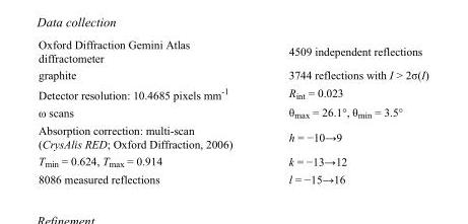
<table><tbody><tr><td>Oxford Diffraction Gemini Atlas diffractometer</td><td>4509 independent reflections</td></tr><tr><td>graphite</td><td>3744 reflections with I &gt; 2σ(I)</td></tr><tr><td>Detector resolution: 10.4685 pixels mm<sup>-1</sup></td><td>R<sub>int</sub> = 0.023</td></tr><tr><td>ω scans</td><td>θ<sub>max</sub> = 26.1°, θ<sub>min</sub> = 3.5°</td></tr><tr><td>Absorption correction: multi-scan (CrysAlis RED; Oxford Diffraction, 2006)</td><td>h = −10→9</td></tr><tr><td>T<sub>min</sub> = 0.624, T<sub>max</sub> = 0.914</td><td>k = −13→12</td></tr><tr><td>8086 measured reflections</td><td>l = −15→16</td></tr></tbody></table>